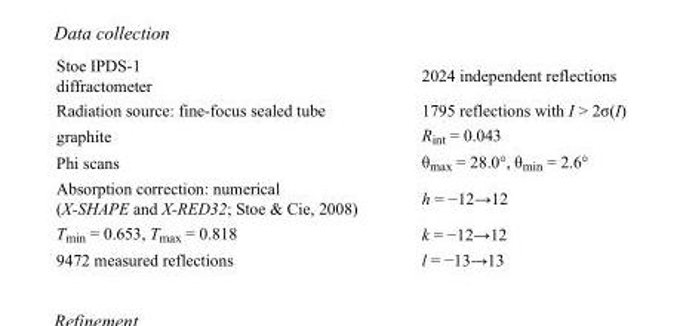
<table><tbody><tr><td>Stoe IPDS-1 diffractometer</td><td>2024 independent reflections</td></tr><tr><td>Radiation source: fine-focus sealed tube</td><td>1795 reflections with I &gt; 2σ(I)</td></tr><tr><td>graphite</td><td>R<sub>int</sub> = 0.043</td></tr><tr><td>Phi scans</td><td>θ<sub>max</sub> = 28.0°, θ<sub>min</sub> = 2.6°</td></tr><tr><td>Absorption correction: numerical (X-SHAPE and X-RED32; Stoe &amp; Cie, 2008)</td><td>h = −12→12</td></tr><tr><td>T<sub>min</sub> = 0.653, T<sub>max</sub> = 0.818</td><td>k = −12→12</td></tr><tr><td>9472 measured reflections</td><td>l = −13→13</td></tr></tbody></table>